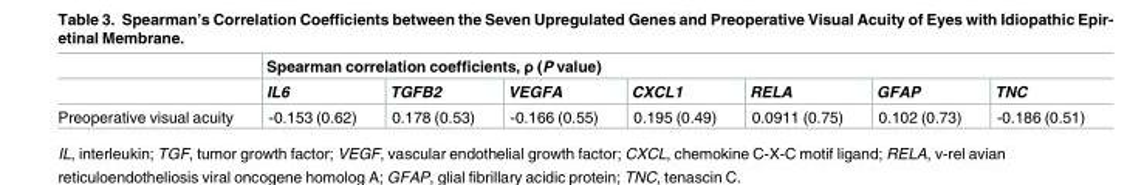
<table><thead><tr><td rowspan="2"></td><td colspan="7">Spearman correlation coefficients, ρ (P value)</td></tr><tr><td>IL6</td><td>TGFB2</td><td>VEGFA</td><td>CXCL1</td><td>RELA</td><td>GFAP</td><td>TNC</td></tr></thead><tbody><tr><td>Preoperative visual acuity</td><td>-0.153 (0.62)</td><td>0.178 (0.53)</td><td>-0.166 (0.55)</td><td>0.195 (0.49)</td><td>0.0911 (0.75)</td><td>0.102 (0.73)</td><td>-0.186 (0.51)</td></tr></tbody></table>